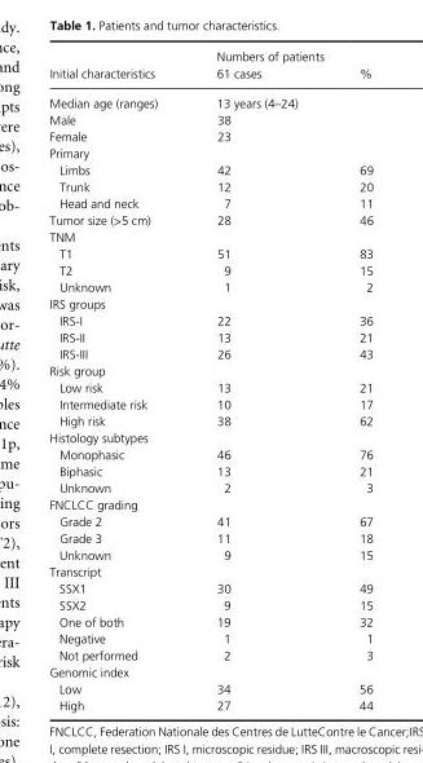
<table><thead><tr><td>Initial characteristics</td><td>Numbers of patients 61 cases</td><td>%</td></tr></thead><tbody><tr><td>Median age (ranges)</td><td>13 years (4–24)</td><td></td></tr><tr><td>Male</td><td>38</td><td></td></tr><tr><td>Female</td><td>23</td><td></td></tr><tr><td colspan="3">Primary</td></tr><tr><td>Limbs</td><td>42</td><td>69</td></tr><tr><td>Trunk</td><td>12</td><td>20</td></tr><tr><td>Head and neck</td><td>7</td><td>11</td></tr><tr><td>Tumor size (&gt;5 cm)</td><td>28</td><td>46</td></tr><tr><td colspan="3">TNM</td></tr><tr><td>T1</td><td>51</td><td>83</td></tr><tr><td>T2</td><td>9</td><td>15</td></tr><tr><td>Unknown</td><td>1</td><td>2</td></tr><tr><td colspan="3">IRS groups</td></tr><tr><td>IRS- I</td><td>22</td><td>36</td></tr><tr><td>IRS- II</td><td>13</td><td>21</td></tr><tr><td>IRS- III</td><td>26</td><td>43</td></tr><tr><td colspan="3">Risk group</td></tr><tr><td>Low risk</td><td>13</td><td>21</td></tr><tr><td>Intermediate risk</td><td>10</td><td>17</td></tr><tr><td>High risk</td><td>38</td><td>62</td></tr><tr><td colspan="3">Histology subtypes</td></tr><tr><td>Monophasic</td><td>46</td><td>76</td></tr><tr><td>Biphasic</td><td>13</td><td>21</td></tr><tr><td>Unknown</td><td>2</td><td>3</td></tr><tr><td colspan="3">FNCLCC grading</td></tr><tr><td>Grade 2</td><td>41</td><td>67</td></tr><tr><td>Grade 3</td><td>11</td><td>18</td></tr><tr><td>Unknown</td><td>9</td><td>15</td></tr><tr><td colspan="3">Transcript</td></tr><tr><td>SSX1</td><td>30</td><td>49</td></tr><tr><td>SSX2</td><td>9</td><td>15</td></tr><tr><td>One of both</td><td>19</td><td>32</td></tr><tr><td>Negative</td><td>1</td><td>1</td></tr><tr><td>Not performed</td><td>2</td><td>3</td></tr><tr><td colspan="3">Genomic index</td></tr><tr><td>Low</td><td>34</td><td>56</td></tr><tr><td>High</td><td>27</td><td>44</td></tr></tbody></table>